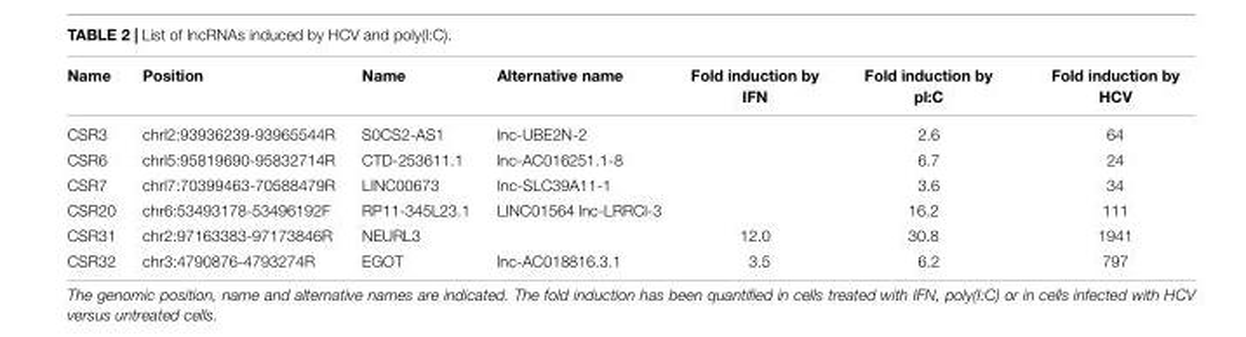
<table><thead><tr><td>Name</td><td>Position</td><td>Name</td><td>Alternative name</td><td>Fold induction by IFN</td><td>Fold induction by pl:C</td><td>Fold induction by HCV</td></tr></thead><tbody><tr><td>CSR3</td><td>chrl2:93936239-93965544R</td><td>S0CS2-AS1</td><td>lnc-UBE2N-2</td><td></td><td>2.6</td><td>64</td></tr><tr><td>CSR6</td><td>chrl5:95819690-95832714R</td><td>CTD-253611.1</td><td>lnc-AC016251.1-8</td><td></td><td>6.7</td><td>24</td></tr><tr><td>CSR7</td><td>chrl7:70399463-70588479R</td><td>LINC00673</td><td>Inc-SLC39A11-1</td><td></td><td>3.6</td><td>34</td></tr><tr><td>CSR20</td><td>chr6:53493178-53496192F</td><td>RP11-345L23.1</td><td>LINC01564 lnc-LRRCl-3</td><td></td><td>16.2</td><td>111</td></tr><tr><td>CSR31</td><td>chr2:97163383-97173846R</td><td>NEURL3</td><td></td><td>12.0</td><td>30.8</td><td>1941</td></tr><tr><td>CSR32</td><td>chr3:4790876-4793274R</td><td>EGOT</td><td>lnc-AC018816.3.1</td><td>3.5</td><td>6.2</td><td>797</td></tr></tbody></table>